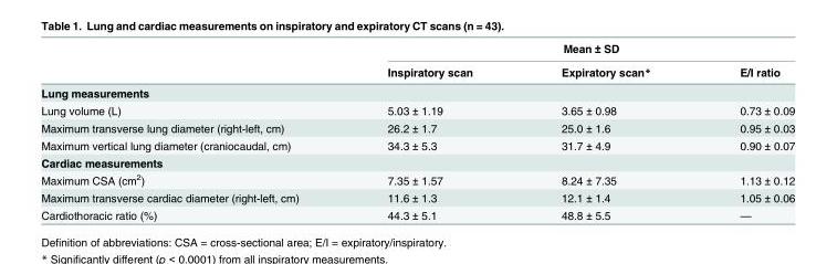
<table><thead><tr><td rowspan="2"></td><td colspan="3">Mean ± SD</td></tr><tr><td>Inspiratory scan</td><td>Expiratory scan*</td><td>E/I ratio</td></tr></thead><tbody><tr><td colspan="4">Lung measurements</td></tr><tr><td>Lung volume (L)</td><td>5.03 ± 1.19</td><td>3.65 ± 0.98</td><td>0.73 ± 0.09</td></tr><tr><td>Maximum transverse lung diameter (right-left, cm)</td><td>26.2 ± 1.7</td><td>25.0 ± 1.6</td><td>0.95 ± 0.03</td></tr><tr><td>Maximum vertical lung diameter (craniocaudal, cm)</td><td>34.3 ± 5.3</td><td>31.7 ± 4.9</td><td>0.90 ± 0.07</td></tr><tr><td colspan="4">Cardiac measurements</td></tr><tr><td>Maximum CSA (cm<sup>2</sup>)</td><td>7.35 ± 1.57</td><td>8.24 ± 7.35</td><td>1.13 ± 0.12</td></tr><tr><td>Maximum transverse cardiac diameter (right-left, cm)</td><td>11.6 ± 1.3</td><td>12.1 ± 1.4</td><td>1.05 ± 0.06</td></tr><tr><td>Cardiothoracic ratio (%)</td><td>44.3 ± 5.1</td><td>48.8 ± 5.5</td><td>—</td></tr></tbody></table>